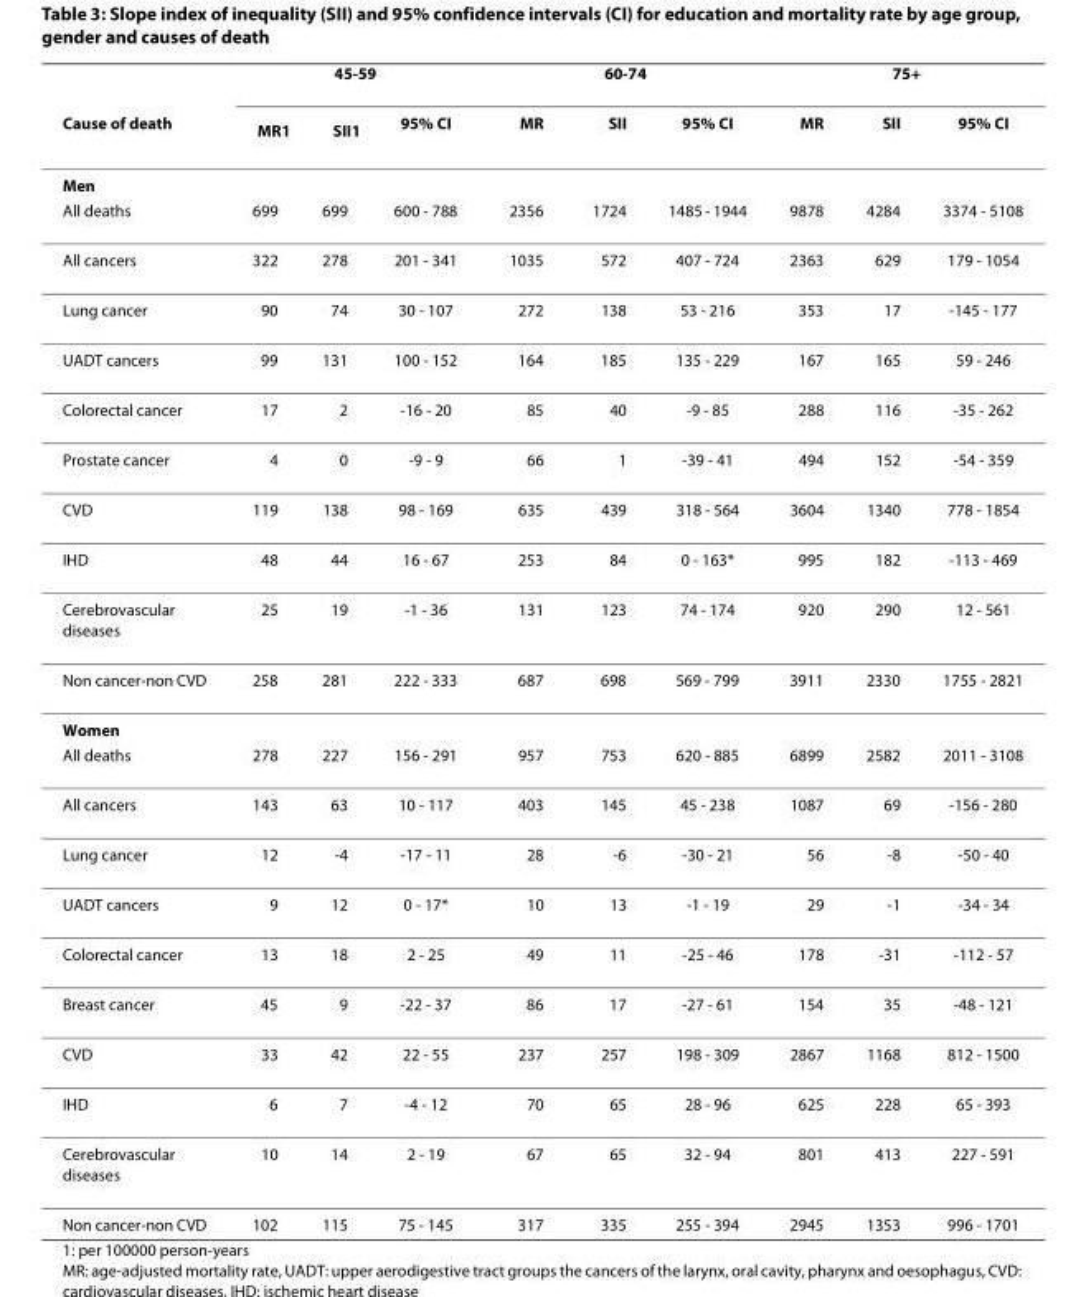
<table><thead><tr><td rowspan="2">Cause of death</td><td colspan="3">45-59</td><td colspan="3">60-74</td><td colspan="3">75+</td></tr><tr><td>MR<sup>1</sup></td><td>SII<sup>1</sup></td><td>95% CI</td><td>MR</td><td>SII</td><td>95% CI</td><td>MR</td><td>SII</td><td>95% CI</td></tr></thead><tbody><tr><td colspan="10">Men</td></tr><tr><td>All deaths</td><td>699</td><td>699</td><td>600 - 788</td><td>2356</td><td>1724</td><td>1485 - 1944</td><td>9878</td><td>4284</td><td>3374 - 5108</td></tr><tr><td>All cancers</td><td>322</td><td>278</td><td>201 - 341</td><td>1035</td><td>572</td><td>407 - 724</td><td>2363</td><td>629</td><td>179 - 1054</td></tr><tr><td>Lung cancer</td><td>90</td><td>74</td><td>30 - 107</td><td>272</td><td>138</td><td>53 - 216</td><td>353</td><td>17</td><td>-145 - 177</td></tr><tr><td>UADT cancers</td><td>99</td><td>131</td><td>100 - 152</td><td>164</td><td>185</td><td>135 - 229</td><td>167</td><td>165</td><td>59 - 246</td></tr><tr><td>Colorectal cancer</td><td>17</td><td>2</td><td>-16 - 20</td><td>85</td><td>40</td><td>-9 - 85</td><td>288</td><td>116</td><td>-35 - 262</td></tr><tr><td>Prostate cancer</td><td>4</td><td>0</td><td>-9 - 9</td><td>66</td><td>1</td><td>-39 - 41</td><td>494</td><td>152</td><td>-54 - 359</td></tr><tr><td>CVD</td><td>119</td><td>138</td><td>98 - 169</td><td>635</td><td>439</td><td>318 - 564</td><td>3604</td><td>1340</td><td>778 - 1854</td></tr><tr><td>IHD</td><td>48</td><td>44</td><td>16 - 67</td><td>253</td><td>84</td><td>0 - 163*</td><td>995</td><td>182</td><td>-113 - 469</td></tr><tr><td>Cerebrovascular diseases</td><td>25</td><td>19</td><td>-1 - 36</td><td>131</td><td>123</td><td>74 - 174</td><td>920</td><td>290</td><td>12 - 561</td></tr><tr><td>Non cancer-non CVD</td><td>258</td><td>281</td><td>222 - 333</td><td>687</td><td>698</td><td>569 - 799</td><td>3911</td><td>2330</td><td>1755 - 2821</td></tr><tr><td colspan="10">Women</td></tr><tr><td>All deaths</td><td>278</td><td>227</td><td>156 - 291</td><td>957</td><td>753</td><td>620 - 885</td><td>6899</td><td>2582</td><td>2011 - 3108</td></tr><tr><td>All cancers</td><td>143</td><td>63</td><td>10 - 117</td><td>403</td><td>145</td><td>45 - 238</td><td>1087</td><td>69</td><td>-156 - 280</td></tr><tr><td>Lung cancer</td><td>12</td><td>-4</td><td>-17 - 11</td><td>28</td><td>-6</td><td>-30 - 21</td><td>56</td><td>-8</td><td>-50 - 40</td></tr><tr><td>UADT cancers</td><td>9</td><td>12</td><td>0 - 17*</td><td>10</td><td>13</td><td>-1 - 19</td><td>29</td><td>-1</td><td>-34 - 34</td></tr><tr><td>Colorectal cancer</td><td>13</td><td>18</td><td>2 - 25</td><td>49</td><td>11</td><td>-25 - 46</td><td>178</td><td>-31</td><td>-112 - 57</td></tr><tr><td>Breast cancer</td><td>45</td><td>9</td><td>-22 - 37</td><td>86</td><td>17</td><td>-27 - 61</td><td>154</td><td>35</td><td>-48 - 121</td></tr><tr><td>CVD</td><td>33</td><td>42</td><td>22 - 55</td><td>237</td><td>257</td><td>198 - 309</td><td>2867</td><td>1168</td><td>812 - 1500</td></tr><tr><td>IHD</td><td>6</td><td>7</td><td>-4 - 12</td><td>70</td><td>65</td><td>28 - 96</td><td>625</td><td>228</td><td>65 - 393</td></tr><tr><td>Cerebrovascular diseases</td><td>10</td><td>14</td><td>2 - 19</td><td>67</td><td>65</td><td>32 - 94</td><td>801</td><td>413</td><td>227 - 591</td></tr><tr><td>Non cancer-non CVD</td><td>102</td><td>115</td><td>75 - 145</td><td>317</td><td>335</td><td>255 - 394</td><td>2945</td><td>1353</td><td>996 - 1701</td></tr></tbody></table>